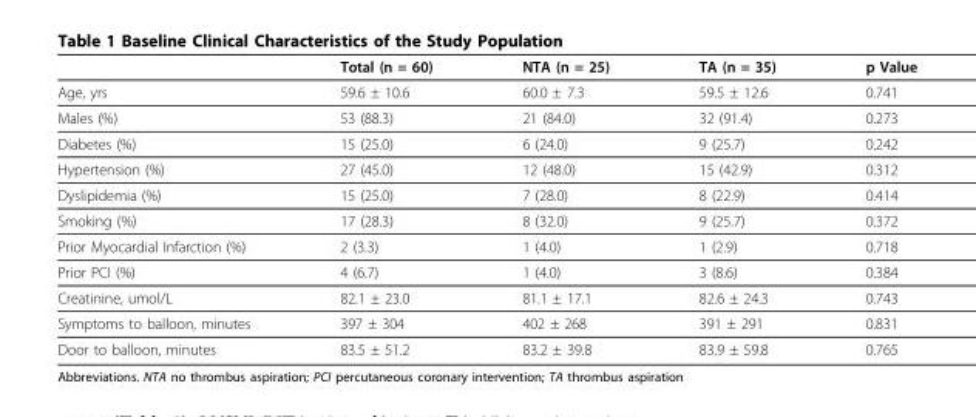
<table><thead><tr><td></td><td>Total (n = 60)</td><td>NTA (n = 25)</td><td>TA (n = 35)</td><td>p Value</td></tr></thead><tbody><tr><td>Age, yrs</td><td>59.6 ± 10.6</td><td>60.0 ± 7.3</td><td>59.5 ± 12.6</td><td>0.741</td></tr><tr><td>Males (%)</td><td>53 (88.3)</td><td>21 (84.0)</td><td>32 (91.4)</td><td>0.273</td></tr><tr><td>Diabetes (%)</td><td>15 (25.0)</td><td>6 (24.0)</td><td>9 (25.7)</td><td>0.242</td></tr><tr><td>Hypertension (%)</td><td>27 (45.0)</td><td>12 (48.0)</td><td>15 (42.9)</td><td>0.312</td></tr><tr><td>Dyslipidemia (%)</td><td>15 (25.0)</td><td>7 (28.0)</td><td>8 (22.9)</td><td>0.414</td></tr><tr><td>Smoking (%)</td><td>17 (28.3)</td><td>8 (32.0)</td><td>9 (25.7)</td><td>0.372</td></tr><tr><td>Prior Myocardial Infarction (%)</td><td>2 (3.3)</td><td>1 (4.0)</td><td>1 (2.9)</td><td>0.718</td></tr><tr><td>Prior PCI (%)</td><td>4 (6.7)</td><td>1 (4.0)</td><td>3 (8.6)</td><td>0.384</td></tr><tr><td>Creatinine, umol/L</td><td>82.1 ± 23.0</td><td>81.1 ± 17.1</td><td>82.6 ± 24.3</td><td>0.743</td></tr><tr><td>Symptoms to balloon, minutes</td><td>397 ± 304</td><td>402 ± 268</td><td>391 ± 291</td><td>0.831</td></tr><tr><td>Door to balloon, minutes</td><td>83.5 ± 51.2</td><td>83.2 ± 39.8</td><td>83.9 ± 59.8</td><td>0.765</td></tr></tbody></table>